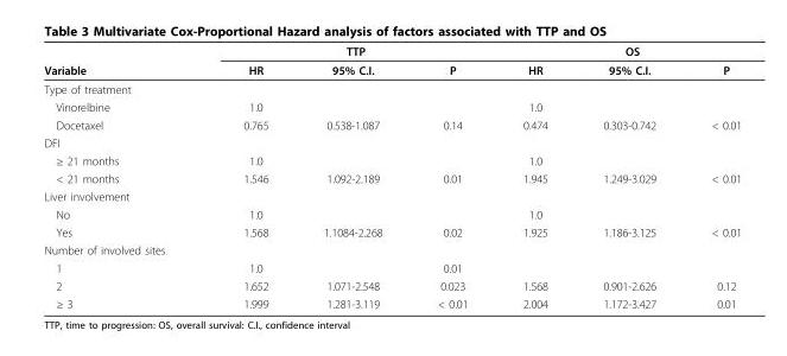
<table><thead><tr><td rowspan="2">Variable</td><td colspan="3">TTP</td><td colspan="3">OS</td></tr><tr><td>HR</td><td>95% C.I.</td><td>P</td><td>HR</td><td>95% C.I.</td><td>P</td></tr></thead><tbody><tr><td colspan="7">Type of treatment</td></tr><tr><td>Vinorelbine</td><td>1.0</td><td></td><td></td><td>1.0</td><td></td><td></td></tr><tr><td>Docetaxel</td><td>0.765</td><td>0.538-1.087</td><td>0.14</td><td>0.474</td><td>0.303-0.742</td><td>&lt; 0.01</td></tr><tr><td colspan="7">DFI</td></tr><tr><td>≥ 21 months</td><td>1.0</td><td></td><td></td><td>1.0</td><td></td><td></td></tr><tr><td>&lt; 21 months</td><td>1.546</td><td>1.092-2.189</td><td>0.01</td><td>1.945</td><td>1.249-3.029</td><td>&lt; 0.01</td></tr><tr><td colspan="7">Liver involvement</td></tr><tr><td>No</td><td>1.0</td><td></td><td></td><td>1.0</td><td></td><td></td></tr><tr><td>Yes</td><td>1.568</td><td>1.1084-2.268</td><td>0.02</td><td>1.925</td><td>1.186-3.125</td><td>&lt; 0.01</td></tr><tr><td colspan="7">Number of involved sites</td></tr><tr><td>1</td><td>1.0</td><td></td><td>0.01</td><td></td><td></td><td></td></tr><tr><td>2</td><td>1.652</td><td>1.071-2.548</td><td>0.023</td><td>1.568</td><td>0.901-2.626</td><td>0.12</td></tr><tr><td>≥ 3</td><td>1.999</td><td>1.281-3.119</td><td>&lt; 0.01</td><td>2.004</td><td>1.172-3.427</td><td>0.01</td></tr></tbody></table>